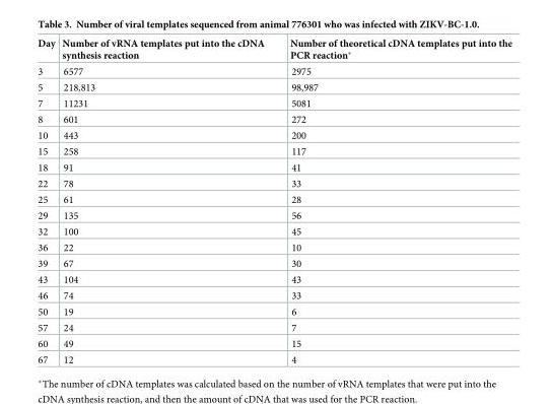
<table><thead><tr><td>Day</td><td>Number of vRNA templates put into the cDNA synthesis reaction</td><td>Number of theoretical cDNA templates put into the PCR reaction*</td></tr></thead><tbody><tr><td>3</td><td>6577</td><td>2975</td></tr><tr><td>5</td><td>218,813</td><td>98,987</td></tr><tr><td>7</td><td>11231</td><td>5081</td></tr><tr><td>8</td><td>601</td><td>272</td></tr><tr><td>10</td><td>443</td><td>200</td></tr><tr><td>15</td><td>258</td><td>117</td></tr><tr><td>18</td><td>91</td><td>41</td></tr><tr><td>22</td><td>78</td><td>33</td></tr><tr><td>25</td><td>61</td><td>28</td></tr><tr><td>29</td><td>135</td><td>56</td></tr><tr><td>32</td><td>100</td><td>45</td></tr><tr><td>36</td><td>22</td><td>10</td></tr><tr><td>39</td><td>67</td><td>30</td></tr><tr><td>43</td><td>104</td><td>43</td></tr><tr><td>46</td><td>74</td><td>33</td></tr><tr><td>50</td><td>19</td><td>6</td></tr><tr><td>57</td><td>24</td><td>7</td></tr><tr><td>60</td><td>49</td><td>15</td></tr><tr><td>67</td><td>12</td><td>4</td></tr></tbody></table>